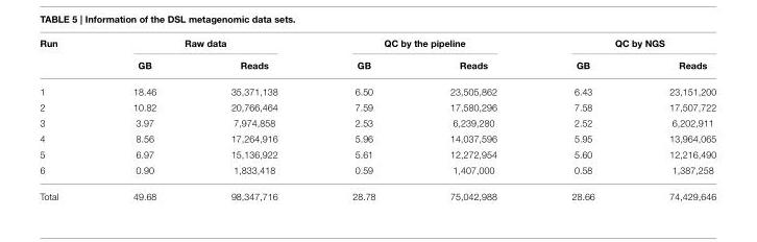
<table><thead><tr><td rowspan="2">Run</td><td colspan="2">Raw data</td><td colspan="2">QC by the pipeline</td><td colspan="2">QC by NGS</td></tr><tr><td>GB</td><td>Reads</td><td>GB</td><td>Reads</td><td>GB</td><td>Reads</td></tr></thead><tbody><tr><td>1</td><td>18.46</td><td>35,371,138</td><td>6.50</td><td>23,505,862</td><td>6.43</td><td>23,151,200</td></tr><tr><td>2</td><td>10.82</td><td>20,766,464</td><td>7.59</td><td>17,580,296</td><td>7.58</td><td>17,507,722</td></tr><tr><td>3</td><td>3.97</td><td>7,974,858</td><td>2.53</td><td>6,239,280</td><td>2.52</td><td>6,202,911</td></tr><tr><td>4</td><td>8.56</td><td>17,264,916</td><td>5.96</td><td>14,037,596</td><td>5.95</td><td>13,964,065</td></tr><tr><td>5</td><td>6.97</td><td>15,136,922</td><td>5.61</td><td>12,272,954</td><td>5.60</td><td>12,216,490</td></tr><tr><td>6</td><td>0.90</td><td>1,833,418</td><td>0.59</td><td>1,407,000</td><td>0.58</td><td>1,387,258</td></tr><tr><td>Total</td><td>49.68</td><td>98,347,716</td><td>28.78</td><td>75,042,988</td><td>28.66</td><td>74,429,646</td></tr></tbody></table>